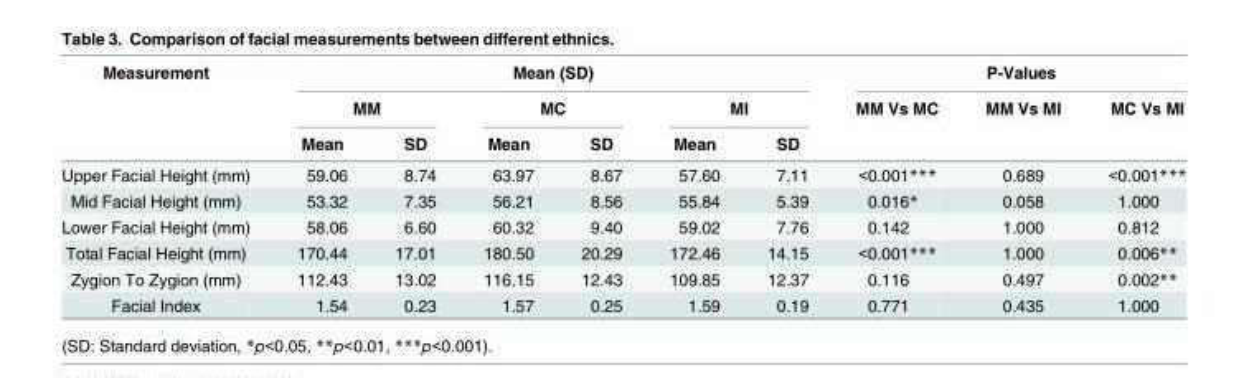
<table><thead><tr><td rowspan="3">Measurement</td><td colspan="6">Mean (SD)</td><td colspan="3">P-Values</td></tr><tr><td colspan="2">MM</td><td colspan="2">MC</td><td colspan="2">MI</td><td rowspan="2">MM Vs MC</td><td rowspan="2">MM Vs MI</td><td rowspan="2">MC Vs MI</td></tr><tr><td>Mean</td><td>SD</td><td>Mean</td><td>SD</td><td>Mean</td><td>SD</td></tr></thead><tbody><tr><td>Upper Facial Height (mm)</td><td>59.06</td><td>8.74</td><td>63.97</td><td>8.67</td><td>57.60</td><td>7.11</td><td>&lt;0.001***</td><td>0.689</td><td>&lt;0.001***</td></tr><tr><td>Mid Facial Height (mm)</td><td>53.32</td><td>7.35</td><td>56.21</td><td>8.56</td><td>55.84</td><td>5.39</td><td>0.016*</td><td>0.058</td><td>1.000</td></tr><tr><td>Lower Facial Height (mm)</td><td>58.06</td><td>6.60</td><td>60.32</td><td>9.40</td><td>59.02</td><td>7.76</td><td>0.142</td><td>1.000</td><td>0.812</td></tr><tr><td>Total Facial Height (mm)</td><td>170.44</td><td>17.01</td><td>180.50</td><td>20.29</td><td>172.46</td><td>14.15</td><td>&lt;0.001***</td><td>1.000</td><td>0.006**</td></tr><tr><td>Zygion To Zygion (mm)</td><td>112.43</td><td>13.02</td><td>116.15</td><td>12.43</td><td>109.85</td><td>12.37</td><td>0.116</td><td>0.497</td><td>0.002**</td></tr><tr><td>Facial Index</td><td>1.54</td><td>0.23</td><td>1.57</td><td>0.25</td><td>1.59</td><td>0.19</td><td>0.771</td><td>0.435</td><td>1.000</td></tr></tbody></table>